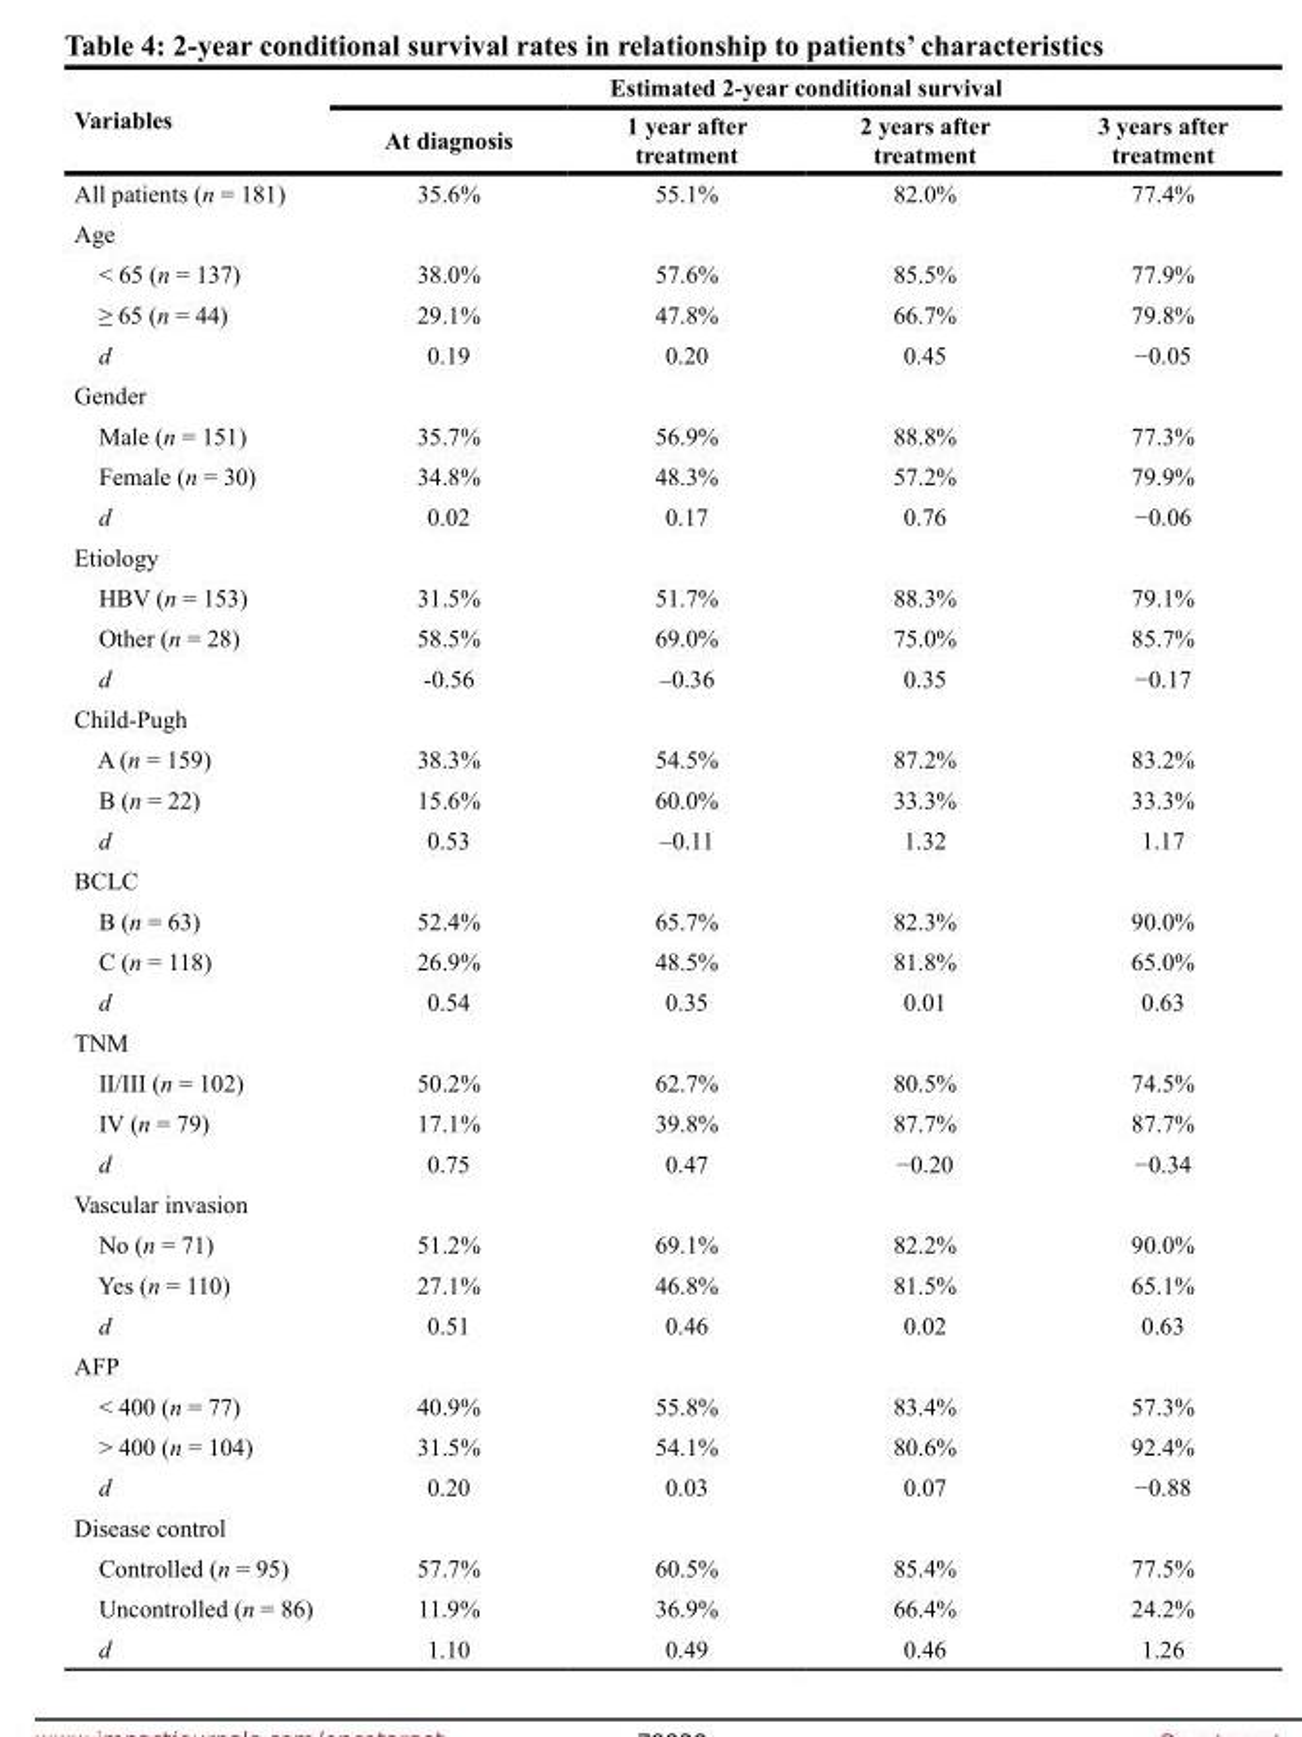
<table><thead><tr><td rowspan="2">Variables</td><td colspan="4">Estimated 2-year conditional survival</td></tr><tr><td>At diagnosis</td><td>1 year after treatment</td><td>2 years after treatment</td><td>3 years after treatment</td></tr></thead><tbody><tr><td>All patients (n = 181)</td><td>35.6%</td><td>55.1%</td><td>82.0%</td><td>77.4%</td></tr><tr><td colspan="5">Age</td></tr><tr><td>&lt; 65 (n = 137)</td><td>38.0%</td><td>57.6%</td><td>85.5%</td><td>77.9%</td></tr><tr><td>≥ 65 (n = 44)</td><td>29.1%</td><td>47.8%</td><td>66.7%</td><td>79.8%</td></tr><tr><td>d</td><td>0.19</td><td>0.20</td><td>0.45</td><td>−0.05</td></tr><tr><td colspan="5">Gender</td></tr><tr><td>Male (n = 151)</td><td>35.7%</td><td>56.9%</td><td>88.8%</td><td>77.3%</td></tr><tr><td>Female (n = 30)</td><td>34.8%</td><td>48.3%</td><td>57.2%</td><td>79.9%</td></tr><tr><td>d</td><td>0.02</td><td>0.17</td><td>0.76</td><td>−0.06</td></tr><tr><td colspan="5">Etiology</td></tr><tr><td>HBV (n = 153)</td><td>31.5%</td><td>51.7%</td><td>88.3%</td><td>79.1%</td></tr><tr><td>Other (n = 28)</td><td>58.5%</td><td>69.0%</td><td>75.0%</td><td>85.7%</td></tr><tr><td>d</td><td>-0.56</td><td>–0.36</td><td>0.35</td><td>−0.17</td></tr><tr><td colspan="5">Child-Pugh</td></tr><tr><td>A (n = 159)</td><td>38.3%</td><td>54.5%</td><td>87.2%</td><td>83.2%</td></tr><tr><td>B (n = 22)</td><td>15.6%</td><td>60.0%</td><td>33.3%</td><td>33.3%</td></tr><tr><td>d</td><td>0.53</td><td>–0.11</td><td>1.32</td><td>1.17</td></tr><tr><td colspan="5">BCLC</td></tr><tr><td>B (n = 63)</td><td>52.4%</td><td>65.7%</td><td>82.3%</td><td>90.0%</td></tr><tr><td>C (n = 118)</td><td>26.9%</td><td>48.5%</td><td>81.8%</td><td>65.0%</td></tr><tr><td>d</td><td>0.54</td><td>0.35</td><td>0.01</td><td>0.63</td></tr><tr><td colspan="5">TNM</td></tr><tr><td>II/III (n = 102)</td><td>50.2%</td><td>62.7%</td><td>80.5%</td><td>74.5%</td></tr><tr><td>IV (n = 79)</td><td>17.1%</td><td>39.8%</td><td>87.7%</td><td>87.7%</td></tr><tr><td>d</td><td>0.75</td><td>0.47</td><td>−0.20</td><td>−0.34</td></tr><tr><td colspan="5">Vascular invasion</td></tr><tr><td>No (n = 71)</td><td>51.2%</td><td>69.1%</td><td>82.2%</td><td>90.0%</td></tr><tr><td>Yes (n = 110)</td><td>27.1%</td><td>46.8%</td><td>81.5%</td><td>65.1%</td></tr><tr><td>d</td><td>0.51</td><td>0.46</td><td>0.02</td><td>0.63</td></tr><tr><td colspan="5">AFP</td></tr><tr><td>&lt; 400 (n = 77)</td><td>40.9%</td><td>55.8%</td><td>83.4%</td><td>57.3%</td></tr><tr><td>&gt; 400 (n = 104)</td><td>31.5%</td><td>54.1%</td><td>80.6%</td><td>92.4%</td></tr><tr><td>d</td><td>0.20</td><td>0.03</td><td>0.07</td><td>−0.88</td></tr><tr><td colspan="5">Disease control</td></tr><tr><td>Controlled (n = 95)</td><td>57.7%</td><td>60.5%</td><td>85.4%</td><td>77.5%</td></tr><tr><td>Uncontrolled (n = 86)</td><td>11.9%</td><td>36.9%</td><td>66.4%</td><td>24.2%</td></tr><tr><td>d</td><td>1.10</td><td>0.49</td><td>0.46</td><td>1.26</td></tr></tbody></table>